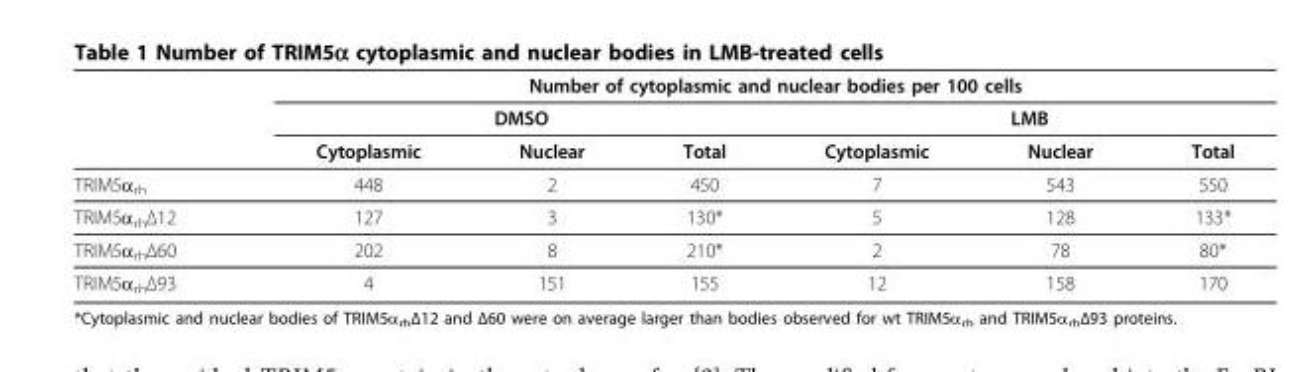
<table><thead><tr><td rowspan="3"></td><td colspan="6">Number of cytoplasmic and nuclear bodies per 100 cells</td></tr><tr><td colspan="3">DMSO</td><td colspan="3">LMB</td></tr><tr><td>Cytoplasmic</td><td>Nuclear</td><td>Total</td><td>Cytoplasmic</td><td>Nuclear</td><td>Total</td></tr></thead><tbody><tr><td>TRIM5α<sub>rh</sub></td><td>448</td><td>2</td><td>450</td><td>7</td><td>543</td><td>550</td></tr><tr><td>TRIM5αrhΔ12</td><td>127</td><td>3</td><td>130*</td><td>5</td><td>128</td><td>133*</td></tr><tr><td>TRIM5αrhΔ60</td><td>202</td><td>8</td><td>210*</td><td>2</td><td>78</td><td>80*</td></tr><tr><td>TRIM5αrhΔ93</td><td>4</td><td>151</td><td>155</td><td>12</td><td>158</td><td>170</td></tr></tbody></table>